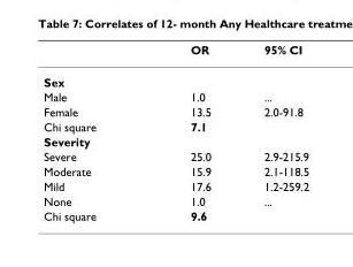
<table><thead><tr><td></td><td>OR</td><td>95% CI</td></tr></thead><tbody><tr><td colspan="3">Sex</td></tr><tr><td>Male</td><td>1.0</td><td>...</td></tr><tr><td>Female</td><td>13.5</td><td>2.0-91.8</td></tr><tr><td>Chi square</td><td>7.1</td><td></td></tr><tr><td colspan="3">Severity</td></tr><tr><td>Severe</td><td>25.0</td><td>2.9-215.9</td></tr><tr><td>Moderate</td><td>15.9</td><td>2.1-118.5</td></tr><tr><td>Mild</td><td>17.6</td><td>1.2-259.2</td></tr><tr><td>None</td><td>1.0</td><td>...</td></tr><tr><td>Chi square</td><td>9.6</td><td></td></tr></tbody></table>